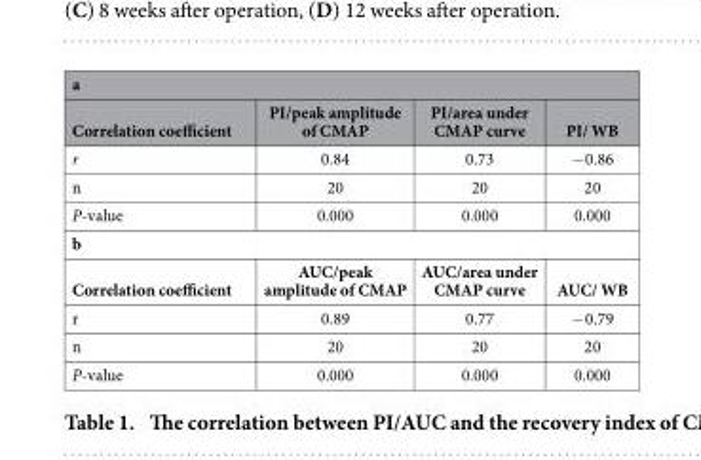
<table><thead><tr><td colspan="4">a</td></tr><tr><td>Correlation coefficient</td><td>PI/peak amplitude of CMAP</td><td>PI/area under CMAP curve</td><td>PI/ WB</td></tr></thead><tbody><tr><td>r</td><td>0.84</td><td>0.73</td><td>− 0.86</td></tr><tr><td>n</td><td>20</td><td>20</td><td>20</td></tr><tr><td>P-value</td><td>0.000</td><td>0.000</td><td>0.000</td></tr><tr><td colspan="4">b</td></tr><tr><td>Correlation coefficient</td><td>AUC/peak amplitude of CMAP</td><td>AUC/area under CMAP curve</td><td>AUC/ WB</td></tr><tr><td>r</td><td>0.89</td><td>0.77</td><td>− 0.79</td></tr><tr><td>n</td><td>20</td><td>20</td><td>20</td></tr><tr><td>P-value</td><td>0.000</td><td>0.000</td><td>0.000</td></tr></tbody></table>